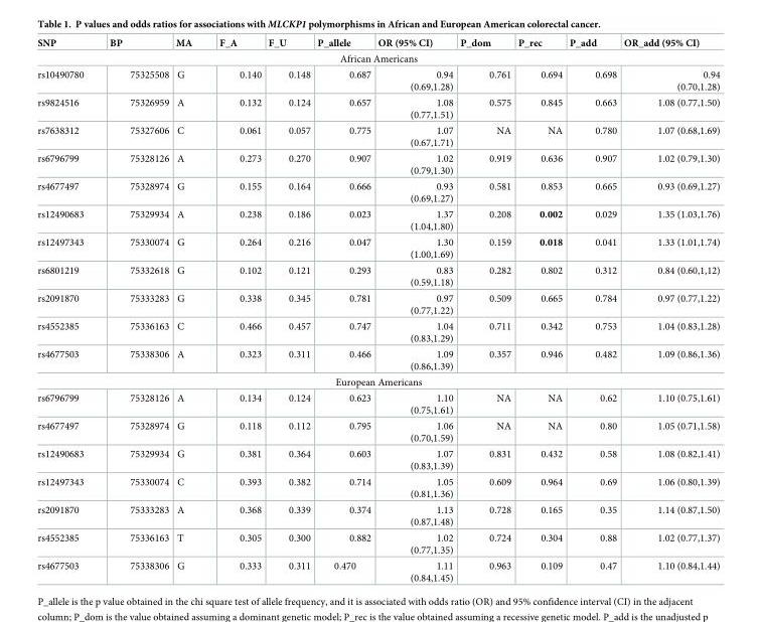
<table><thead><tr><td>SNP</td><td>BP</td><td>MA</td><td>F_A</td><td>F_U</td><td>P_allele</td><td>OR (95% CI)</td><td>P_dom</td><td>P_rec</td><td>P_add</td><td>OR_add (95% CI)</td></tr></thead><tbody><tr><td colspan="11">African Americans</td></tr><tr><td>rs10490780</td><td>75325508</td><td>G</td><td>0.140</td><td>0.148</td><td>0.687</td><td>0.94 (0.69,1.28)</td><td>0.761</td><td>0.694</td><td>0.698</td><td>0.94 (0.70,1.28)</td></tr><tr><td>rs9824516</td><td>75326959</td><td>A</td><td>0.132</td><td>0.124</td><td>0.657</td><td>1.08 (0.77,1.51)</td><td>0.575</td><td>0.845</td><td>0.663</td><td>1.08 (0.77,1.50)</td></tr><tr><td>rs7638312</td><td>75327606</td><td>C</td><td>0.061</td><td>0.057</td><td>0.775</td><td>1.07 (0.67,1.71)</td><td>NA</td><td>NA</td><td>0.780</td><td>1.07 (0.68,1.69)</td></tr><tr><td>rs6796799</td><td>75328126</td><td>A</td><td>0.273</td><td>0.270</td><td>0.907</td><td>1.02 (0.79,1.30)</td><td>0.919</td><td>0.636</td><td>0.907</td><td>1.02 (0.79,1.30)</td></tr><tr><td>rs4677497</td><td>75328974</td><td>G</td><td>0.155</td><td>0.164</td><td>0.666</td><td>0.93 (0.69,1.27)</td><td>0.581</td><td>0.853</td><td>0.665</td><td>0.93 (0.69,1.27)</td></tr><tr><td>rs12490683</td><td>75329934</td><td>A</td><td>0.238</td><td>0.186</td><td>0.023</td><td>1.37 (1.04,1.80)</td><td>0.208</td><td>0.002</td><td>0.029</td><td>1.35 (1.03,1.76)</td></tr><tr><td>rs12497343</td><td>75330074</td><td>G</td><td>0.264</td><td>0.216</td><td>0.047</td><td>1.30 (1.00,1.69)</td><td>0.159</td><td>0.018</td><td>0.041</td><td>1.33 (1.01,1.74)</td></tr><tr><td>rs6801219</td><td>75332618</td><td>G</td><td>0.102</td><td>0.121</td><td>0.293</td><td>0.83 (0.59,1.18)</td><td>0.282</td><td>0.802</td><td>0.312</td><td>0.84 (0.60,1,12)</td></tr><tr><td>rs2091870</td><td>75333283</td><td>G</td><td>0.338</td><td>0.345</td><td>0.781</td><td>0.97 (0.77,1.22)</td><td>0.509</td><td>0.665</td><td>0.784</td><td>0.97 (0.77,1.22)</td></tr><tr><td>rs4552385</td><td>75336163</td><td>C</td><td>0.466</td><td>0.457</td><td>0.747</td><td>1.04 (0.83,1.29)</td><td>0.711</td><td>0.342</td><td>0.753</td><td>1.04 (0.83,1.28)</td></tr><tr><td>rs4677503</td><td>75338306</td><td>A</td><td>0.323</td><td>0.311</td><td>0.466</td><td>1.09 (0.86,1.39)</td><td>0.357</td><td>0.946</td><td>0.482</td><td>1.09 (0.86,1.36)</td></tr><tr><td colspan="11">European Americans</td></tr><tr><td>rs6796799</td><td>75328126</td><td>A</td><td>0.134</td><td>0.124</td><td>0.623</td><td>1.10 (0.75,1.61)</td><td>NA</td><td>NA</td><td>0.62</td><td>1.10 (0.75,1.61)</td></tr><tr><td>rs4677497</td><td>75328974</td><td>G</td><td>0.118</td><td>0.112</td><td>0.795</td><td>1.06 (0.70,1.59)</td><td>NA</td><td>NA</td><td>0.80</td><td>1.05 (0.71,1.58)</td></tr><tr><td>rs12490683</td><td>75329934</td><td>G</td><td>0.381</td><td>0.364</td><td>0.603</td><td>1.07 (0.83,1.39)</td><td>0.831</td><td>0.432</td><td>0.58</td><td>1.08 (0.82,1.41)</td></tr><tr><td>rs12497343</td><td>75330074</td><td>C</td><td>0.393</td><td>0.382</td><td>0.714</td><td>1.05 (0.81,1.36)</td><td>0.609</td><td>0.964</td><td>0.69</td><td>1.06 (0.80,1.39)</td></tr><tr><td>rs2091870</td><td>75333283</td><td>A</td><td>0.368</td><td>0.339</td><td>0.374</td><td>1.13 (0.87,1.48)</td><td>0.728</td><td>0.165</td><td>0.35</td><td>1.14 (0.87,1.50)</td></tr><tr><td>rs4552385</td><td>75336163</td><td>T</td><td>0.305</td><td>0.300</td><td>0.882</td><td>1.02 (0.77,1.35)</td><td>0.724</td><td>0.304</td><td>0.88</td><td>1.02 (0.77,1.37)</td></tr><tr><td>rs4677503</td><td>75338306</td><td>G</td><td>0.333</td><td>0.311</td><td>0.470</td><td>1.11 (0.84,1.45)</td><td>0.963</td><td>0.109</td><td>0.47</td><td>1.10 (0.84,1.44)</td></tr></tbody></table>